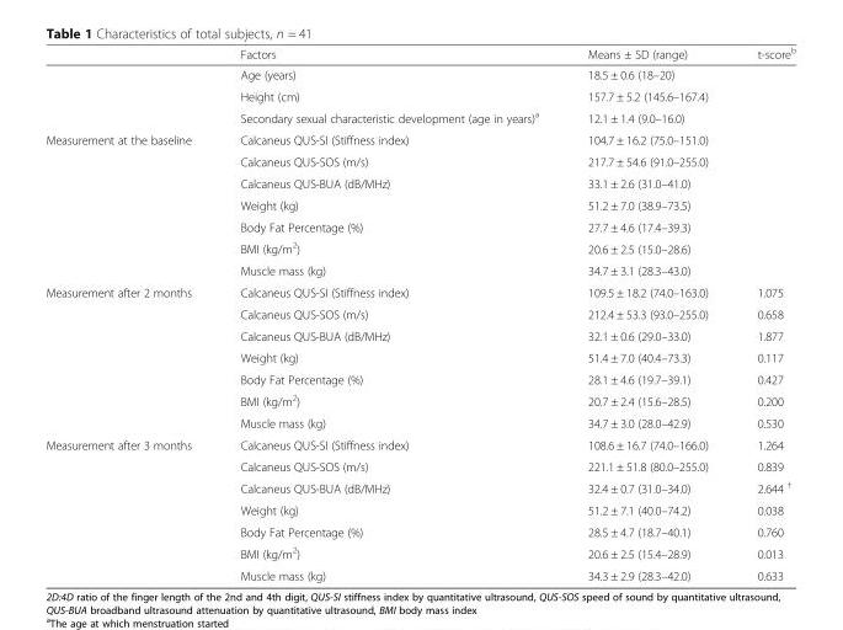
<table><thead><tr><td></td><td>Factors</td><td>Means ± SD (range)</td><td>t-score<sup>b</sup></td></tr></thead><tbody><tr><td rowspan="3"></td><td>Age (years)</td><td>18.5 ± 0.6 (18–20)</td><td rowspan="10"></td></tr><tr><td>Height (cm)</td><td>157.7 ± 5.2 (145.6–167.4)</td></tr><tr><td>Secondary sexual characteristic development (age in years)<sup>a</sup></td><td>12.1 ± 1.4 (9.0–16.0)</td></tr><tr><td rowspan="7">Measurement at the baseline</td><td>Calcaneus QUS-SI (Stiffness index)</td><td>104.7 ± 16.2 (75.0–151.0)</td></tr><tr><td>Calcaneus QUS-SOS (m/s)</td><td>217.7 ± 54.6 (91.0–255.0)</td></tr><tr><td>Calcaneus QUS-BUA (dB/MHz)</td><td>33.1 ± 2.6 (31.0–41.0)</td></tr><tr><td>Weight (kg)</td><td>51.2 ± 7.0 (38.9–73.5)</td></tr><tr><td>Body Fat Percentage (%)</td><td>27.7 ± 4.6 (17.4–39.3)</td></tr><tr><td>BMI (kg/m<sup>2</sup>)</td><td>20.6 ± 2.5 (15.0–28.6)</td></tr><tr><td>Muscle mass (kg)</td><td>34.7 ± 3.1 (28.3–43.0)</td></tr><tr><td rowspan="7">Measurement after 2 months</td><td>Calcaneus QUS-SI (Stiffness index)</td><td>109.5 ± 18.2 (74.0–163.0)</td><td>1.075</td></tr><tr><td>Calcaneus QUS-SOS (m/s)</td><td>212.4 ± 53.3 (93.0–255.0)</td><td>0.658</td></tr><tr><td>Calcaneus QUS-BUA (dB/MHz)</td><td>32.1 ± 0.6 (29.0–33.0)</td><td>1.877</td></tr><tr><td>Weight (kg)</td><td>51.4 ± 7.0 (40.4–73.3)</td><td>0.117</td></tr><tr><td>Body Fat Percentage (%)</td><td>28.1 ± 4.6 (19.7–39.1)</td><td>0.427</td></tr><tr><td>BMI (kg/m<sup>2</sup>)</td><td>20.7 ± 2.4 (15.6–28.5)</td><td>0.200</td></tr><tr><td>Muscle mass (kg)</td><td>34.7 ± 3.0 (28.0–42.9)</td><td>0.530</td></tr><tr><td rowspan="7">Measurement after 3 months</td><td>Calcaneus QUS-SI (Stiffness index)</td><td>108.6 ± 16.7 (74.0–166.0)</td><td>1.264</td></tr><tr><td>Calcaneus QUS-SOS (m/s)</td><td>221.1 ± 51.8 (80.0–255.0)</td><td>0.839</td></tr><tr><td>Calcaneus QUS-BUA (dB/MHz)</td><td>32.4 ± 0.7 (31.0–34.0)</td><td>2.644 <sup>†</sup></td></tr><tr><td>Weight (kg)</td><td>51.2 ± 7.1 (40.0–74.2)</td><td>0.038</td></tr><tr><td>Body Fat Percentage (%)</td><td>28.5 ± 4.7 (18.7–40.1)</td><td>0.760</td></tr><tr><td>BMI (kg/m<sup>2</sup>)</td><td>20.6 ± 2.5 (15.4–28.9)</td><td>0.013</td></tr><tr><td>Muscle mass (kg)</td><td>34.3 ± 2.9 (28.3–42.0)</td><td>0.633</td></tr></tbody></table>